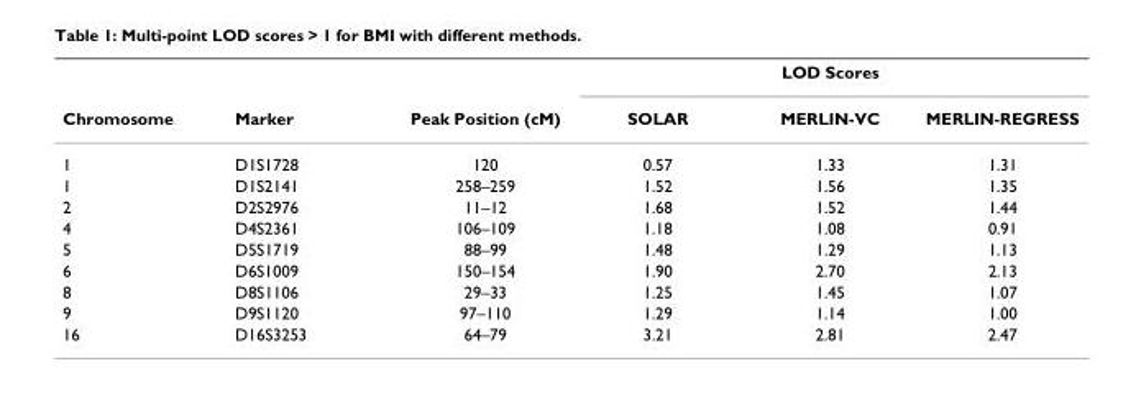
<table><thead><tr><td rowspan="2">Chromosome</td><td rowspan="2">Marker</td><td rowspan="2">Peak Position (cM)</td><td colspan="3">LOD Scores</td></tr><tr><td>SOLAR</td><td>MERLIN-VC</td><td>MERLIN-REGRESS</td></tr></thead><tbody><tr><td>1</td><td>D1S1728</td><td>120</td><td>0.57</td><td>1.33</td><td>1.31</td></tr><tr><td>1</td><td>D1S2141</td><td>258–259</td><td>1.52</td><td>1.56</td><td>1.35</td></tr><tr><td>2</td><td>D2S2976</td><td>11–12</td><td>1.68</td><td>1.52</td><td>1.44</td></tr><tr><td>4</td><td>D4S2361</td><td>106–109</td><td>1.18</td><td>1.08</td><td>0.91</td></tr><tr><td>5</td><td>D5S1719</td><td>88–99</td><td>1.48</td><td>1.29</td><td>1.13</td></tr><tr><td>6</td><td>D6S1009</td><td>150–154</td><td>1.90</td><td>2.70</td><td>2.13</td></tr><tr><td>8</td><td>D8S1106</td><td>29–33</td><td>1.25</td><td>1.45</td><td>1.07</td></tr><tr><td>9</td><td>D9S1120</td><td>97–110</td><td>1.29</td><td>1.14</td><td>1.00</td></tr><tr><td>16</td><td>D16S3253</td><td>64–79</td><td>3.21</td><td>2.81</td><td>2.47</td></tr></tbody></table>